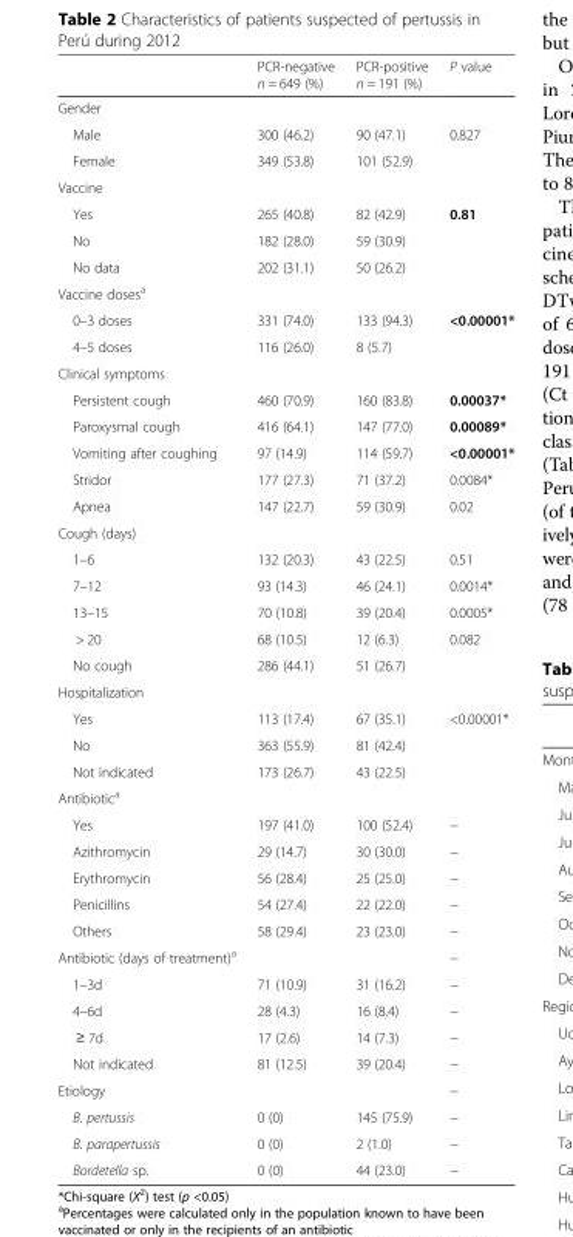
<table><thead><tr><td></td><td>PCR-negative n = 649 (%)</td><td>PCR-positive n = 191 (%)</td><td>P value</td></tr></thead><tbody><tr><td colspan="4">Gender</td></tr><tr><td>Male</td><td>300 (46.2)</td><td>90 (47.1)</td><td>0.827</td></tr><tr><td>Female</td><td>349 (53.8)</td><td>101 (52.9)</td><td></td></tr><tr><td colspan="4">Vaccine</td></tr><tr><td>Yes</td><td>265 (40.8)</td><td>82 (42.9)</td><td>0.81</td></tr><tr><td>No</td><td>182 (28.0)</td><td>59 (30.9)</td><td></td></tr><tr><td>No data</td><td>202 (31.1)</td><td>50 (26.2)</td><td></td></tr><tr><td colspan="4">Vaccine doses<sup>a</sup></td></tr><tr><td>0–3 doses</td><td>331 (74.0)</td><td>133 (94.3)</td><td>&lt;0.00001*</td></tr><tr><td>4–5 doses</td><td>116 (26.0)</td><td>8 (5.7)</td><td></td></tr><tr><td colspan="4">Clinical symptoms</td></tr><tr><td>Persistent cough</td><td>460 (70.9)</td><td>160 (83.8)</td><td>0.00037*</td></tr><tr><td>Paroxysmal cough</td><td>416 (64.1)</td><td>147 (77.0)</td><td>0.00089*</td></tr><tr><td>Vomiting after coughing</td><td>97 (14.9)</td><td>114 (59.7)</td><td>&lt;0.00001*</td></tr><tr><td>Stridor</td><td>177 (27.3)</td><td>71 (37.2)</td><td>0.0084*</td></tr><tr><td>Apnea</td><td>147 (22.7)</td><td>59 (30.9)</td><td>0.02</td></tr><tr><td colspan="4">Cough (days)</td></tr><tr><td>1–6</td><td>132 (20.3)</td><td>43 (22.5)</td><td>0.51</td></tr><tr><td>7–12</td><td>93 (14.3)</td><td>46 (24.1)</td><td>0.0014*</td></tr><tr><td>13–15</td><td>70 (10.8)</td><td>39 (20.4)</td><td>0.0005*</td></tr><tr><td>&gt; 20</td><td>68 (10.5)</td><td>12 (6.3)</td><td>0.082</td></tr><tr><td>No cough</td><td>286 (44.1)</td><td>51 (26.7)</td><td></td></tr><tr><td colspan="4">Hospitalization</td></tr><tr><td>Yes</td><td>113 (17.4)</td><td>67 (35.1)</td><td>&lt;0.00001*</td></tr><tr><td>No</td><td>363 (55.9)</td><td>81 (42.4)</td><td></td></tr><tr><td>Not indicated</td><td>173 (26.7)</td><td>43 (22.5)</td><td></td></tr><tr><td colspan="4">Antibiotic<sup>a</sup></td></tr><tr><td>Yes</td><td>197 (41.0)</td><td>100 (52.4)</td><td>−</td></tr><tr><td>Azithromycin</td><td>29 (14.7)</td><td>30 (30.0)</td><td>−</td></tr><tr><td>Erythromycin</td><td>56 (28.4)</td><td>25 (25.0)</td><td>−</td></tr><tr><td>Penicillins</td><td>54 (27.4)</td><td>22 (22.0)</td><td>−</td></tr><tr><td>Others</td><td>58 (29.4)</td><td>23 (23.0)</td><td>−</td></tr><tr><td>Antibiotic (days of treatment)<sup>a</sup></td><td></td><td></td><td>−</td></tr><tr><td>1–3d</td><td>71 (10.9)</td><td>31 (16.2)</td><td>−</td></tr><tr><td>4–6d</td><td>28 (4.3)</td><td>16 (8.4)</td><td>−</td></tr><tr><td>≥ 7d</td><td>17 (2.6)</td><td>14 (7.3)</td><td>−</td></tr><tr><td>Not indicated</td><td>81 (12.5)</td><td>39 (20.4)</td><td>−</td></tr><tr><td>Etiology</td><td></td><td></td><td>−</td></tr><tr><td>B. pertussis</td><td>0 (0)</td><td>145 (75.9)</td><td>−</td></tr><tr><td>B. parapertussis</td><td>0 (0)</td><td>2 (1.0)</td><td>−</td></tr><tr><td>Bordetella sp.</td><td>0 (0)</td><td>44 (23.0)</td><td>−</td></tr></tbody></table>